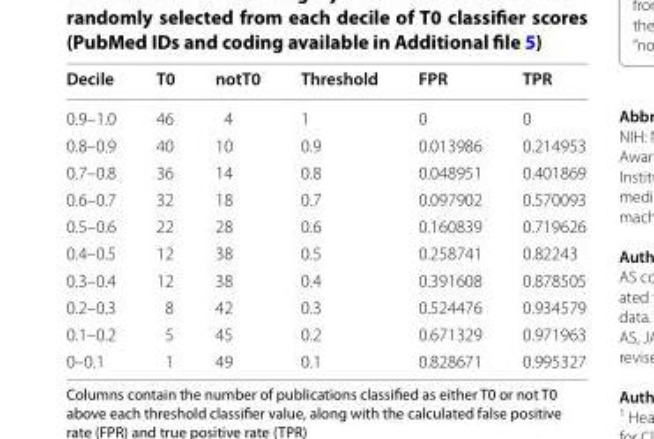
<table><thead><tr><td>Decile</td><td>T0</td><td>notT0</td><td>Threshold</td><td>FPR</td><td>TPR</td></tr></thead><tbody><tr><td>0.9–1.0</td><td>46</td><td>4</td><td>1</td><td>0</td><td>0</td></tr><tr><td>0.8–0.9</td><td>40</td><td>10</td><td>0.9</td><td>0.013986</td><td>0.214953</td></tr><tr><td>0.7–0.8</td><td>36</td><td>14</td><td>0.8</td><td>0.048951</td><td>0.401869</td></tr><tr><td>0.6–0.7</td><td>32</td><td>18</td><td>0.7</td><td>0.097902</td><td>0.570093</td></tr><tr><td>0.5–0.6</td><td>22</td><td>28</td><td>0.6</td><td>0.160839</td><td>0.719626</td></tr><tr><td>0.4–0.5</td><td>12</td><td>38</td><td>0.5</td><td>0.258741</td><td>0.82243</td></tr><tr><td>0.3–0.4</td><td>12</td><td>38</td><td>0.4</td><td>0.391608</td><td>0.878505</td></tr><tr><td>0.2–0.3</td><td>8</td><td>42</td><td>0.3</td><td>0.524476</td><td>0.934579</td></tr><tr><td>0.1–0.2</td><td>5</td><td>45</td><td>0.2</td><td>0.671329</td><td>0.971963</td></tr><tr><td>0–0.1</td><td>1</td><td>49</td><td>0.1</td><td>0.828671</td><td>0.995327</td></tr></tbody></table>